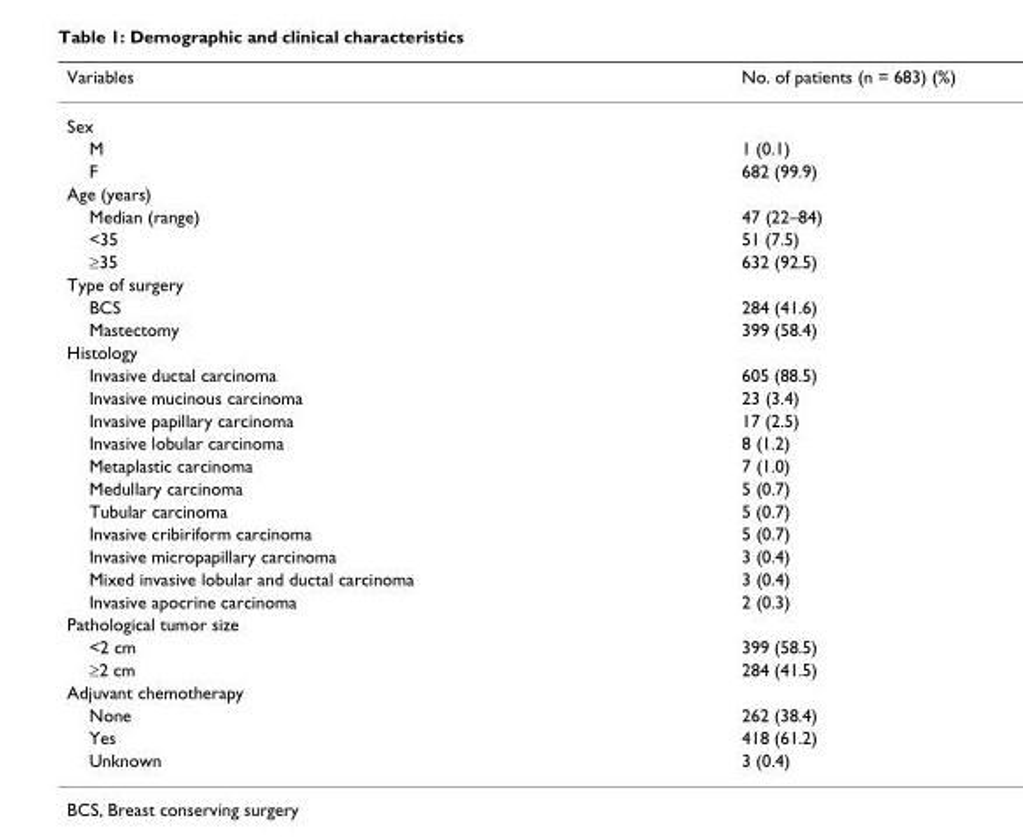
<table><thead><tr><td>Variables</td><td>No. of patients (n = 683) (%)</td></tr></thead><tbody><tr><td colspan="2">Sex</td></tr><tr><td>M</td><td>1 (0.1)</td></tr><tr><td>F</td><td>682 (99.9)</td></tr><tr><td colspan="2">Age (years)</td></tr><tr><td>Median (range)</td><td>47 (22–84)</td></tr><tr><td>&lt;35</td><td>51 (7.5)</td></tr><tr><td>≥35</td><td>632 (92.5)</td></tr><tr><td colspan="2">Type of surgery</td></tr><tr><td>BCS</td><td>284 (41.6)</td></tr><tr><td>Mastectomy</td><td>399 (58.4)</td></tr><tr><td colspan="2">Histology</td></tr><tr><td>Invasive ductal carcinoma</td><td>605 (88.5)</td></tr><tr><td>Invasive mucinous carcinoma</td><td>23 (3.4)</td></tr><tr><td>Invasive papillary carcinoma</td><td>17 (2.5)</td></tr><tr><td>Invasive lobular carcinoma</td><td>8 (1.2)</td></tr><tr><td>Metaplastic carcinoma</td><td>7 (1.0)</td></tr><tr><td>Medullary carcinoma</td><td>5 (0.7)</td></tr><tr><td>Tubular carcinoma</td><td>5 (0.7)</td></tr><tr><td>Invasive cribiriform carcinoma</td><td>5 (0.7)</td></tr><tr><td>Invasive micropapillary carcinoma</td><td>3 (0.4)</td></tr><tr><td>Mixed invasive lobular and ductal carcinoma</td><td>3 (0.4)</td></tr><tr><td>Invasive apocrine carcinoma</td><td>2 (0.3)</td></tr><tr><td colspan="2">Pathological tumor size</td></tr><tr><td>&lt;2 cm</td><td>399 (58.5)</td></tr><tr><td>≥2 cm</td><td>284 (41.5)</td></tr><tr><td colspan="2">Adjuvant chemotherapy</td></tr><tr><td>None</td><td>262 (38.4)</td></tr><tr><td>Yes</td><td>418 (61.2)</td></tr><tr><td>Unknown</td><td>3 (0.4)</td></tr></tbody></table>